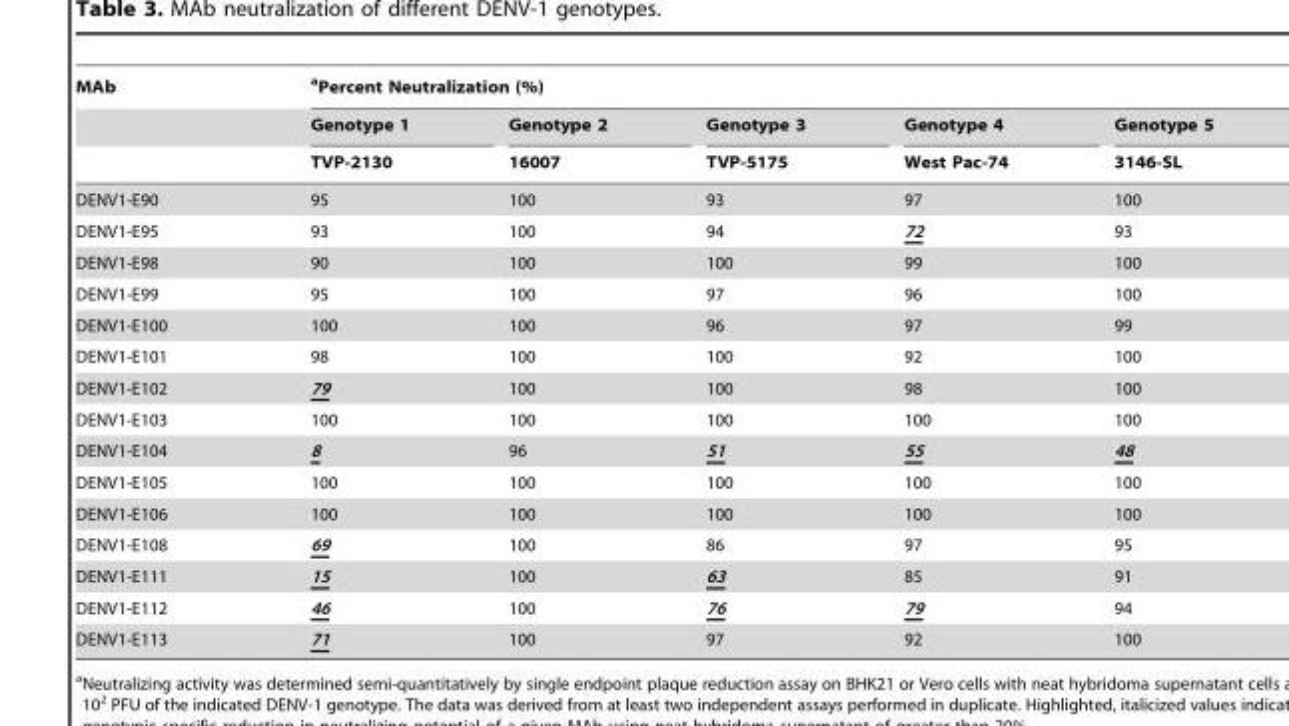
<table><thead><tr><td rowspan="3">MAb</td><td colspan="5">aPercent Neutralization (%)</td></tr><tr><td rowspan="2">Genotype 1 TVP-2130</td><td rowspan="2">Genotype 2 16007</td><td rowspan="2">Genotype 3 TVP-5175</td><td rowspan="2">Genotype 4 West Pac-74</td><td rowspan="2">Genotype 5 3146-SL</td></tr><tr></tr></thead><tbody><tr><td>DENV1-E90</td><td>95</td><td>100</td><td>93</td><td>97</td><td>100</td></tr><tr><td>DENV1-E95</td><td>93</td><td>100</td><td>94</td><td>72</td><td>93</td></tr><tr><td>DENV1-E98</td><td>90</td><td>100</td><td>100</td><td>99</td><td>100</td></tr><tr><td>DENV1-E99</td><td>95</td><td>100</td><td>97</td><td>96</td><td>100</td></tr><tr><td>DENV1-E100</td><td>100</td><td>100</td><td>96</td><td>97</td><td>99</td></tr><tr><td>DENV1-E101</td><td>98</td><td>100</td><td>100</td><td>92</td><td>100</td></tr><tr><td>DENV1-E102</td><td>79</td><td>100</td><td>100</td><td>98</td><td>100</td></tr><tr><td>DENV1-E103</td><td>100</td><td>100</td><td>100</td><td>100</td><td>100</td></tr><tr><td>DENV1-E104</td><td>8</td><td>96</td><td>51</td><td>55</td><td>48</td></tr><tr><td>DENV1-E105</td><td>100</td><td>100</td><td>100</td><td>100</td><td>100</td></tr><tr><td>DENV1-E106</td><td>100</td><td>100</td><td>100</td><td>100</td><td>100</td></tr><tr><td>DENV1-E108</td><td>69</td><td>100</td><td>86</td><td>97</td><td>95</td></tr><tr><td>DENV1-E111</td><td>15</td><td>100</td><td>63</td><td>85</td><td>91</td></tr><tr><td>DENV1-E112</td><td>46</td><td>100</td><td>76</td><td>79</td><td>94</td></tr><tr><td>DENV1-E113</td><td>71</td><td>100</td><td>97</td><td>92</td><td>100</td></tr></tbody></table>